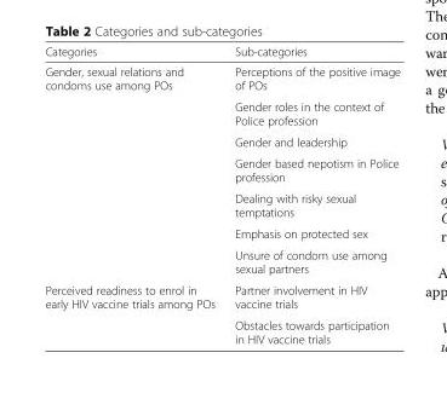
<table><thead><tr><td>Categories</td><td>Sub-categories</td></tr></thead><tbody><tr><td rowspan="7">Gender, sexual relations and condoms use among POs</td><td>Perceptions of the positive image of POs</td></tr><tr><td>Gender roles in the context of Police profession</td></tr><tr><td>Gender and leadership</td></tr><tr><td>Gender based nepotism in Police profession</td></tr><tr><td>Dealing with risky sexual temptations</td></tr><tr><td>Emphasis on protected sex</td></tr><tr><td>Unsure of condom use among sexual partners</td></tr><tr><td rowspan="2">Perceived readiness to enrol in early HIV vaccine trials among POs</td><td>Partner involvement in HIV vaccine trials</td></tr><tr><td>Obstacles towards participation in HIV vaccine trials</td></tr></tbody></table>